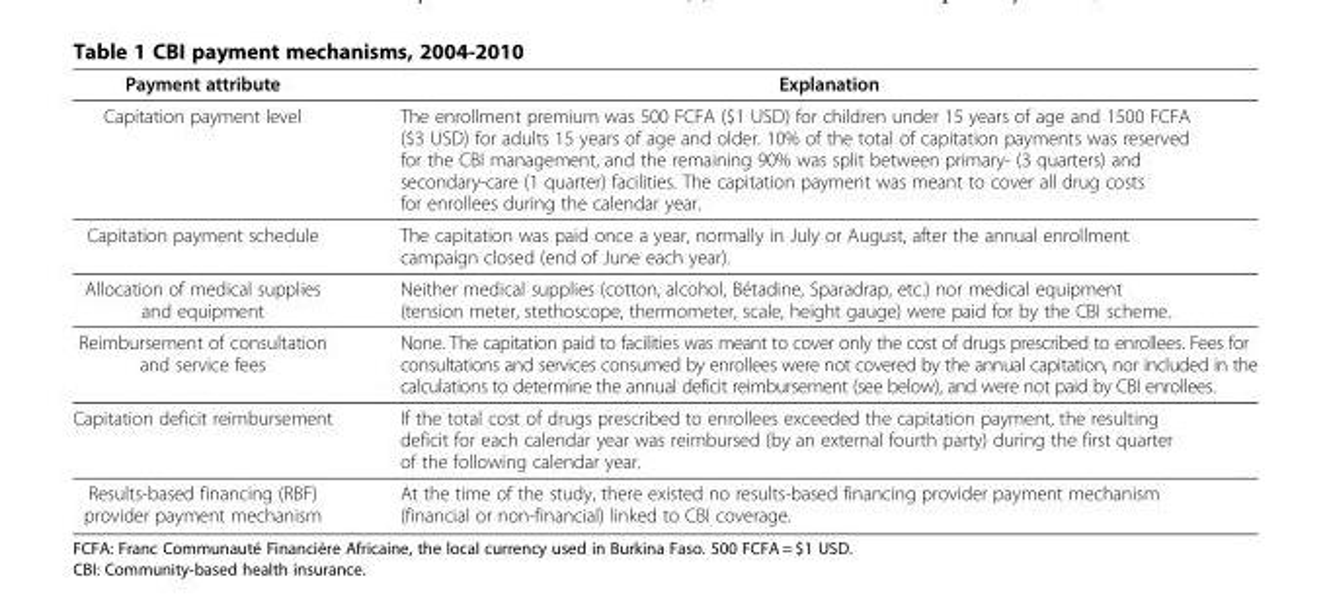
<table><thead><tr><td>Payment attribute</td><td>Explanation</td></tr></thead><tbody><tr><td>Capitation payment level</td><td>The enrollment premium was 500 FCFA ($1 USD) for children under 15 years of age and 1500 FCFA ($3 USD) for adults 15 years of age and older. 10% of the total of capitation payments was reserved for the CBI management, and the remaining 90% was split between primary- (3 quarters) and secondary-care (1 quarter) facilities. The capitation payment was meant to cover all drug costs for enrollees during the calendar year.</td></tr><tr><td>Capitation payment schedule</td><td>The capitation was paid once a year, normally in July or August, after the annual enrollment campaign closed (end of June each year).</td></tr><tr><td>Allocation of medical supplies and equipment</td><td>Neither medical supplies (cotton, alcohol, Bétadine, Sparadrap, etc.) nor medical equipment (tension meter, stethoscope, thermometer, scale, height gauge) were paid for by the CBI scheme.</td></tr><tr><td>Reimbursement of consultation and service fees</td><td>None. The capitation paid to facilities was meant to cover only the cost of drugs prescribed to enrollees. Fees for consultations and services consumed by enrollees were not covered by the annual capitation, nor included in the calculations to determine the annual deficit reimbursement (see below), and were not paid by CBI enrollees.</td></tr><tr><td>Capitation deficit reimbursement</td><td>If the total cost of drugs prescribed to enrollees exceeded the capitation payment, the resulting deficit for each calendar year was reimbursed (by an external fourth party) during the first quarter of the following calendar year.</td></tr><tr><td>Results-based financing (RBF) provider payment mechanism</td><td>At the time of the study, there existed no results-based financing provider payment mechanism (financial or non-financial) linked to CBI coverage.</td></tr></tbody></table>